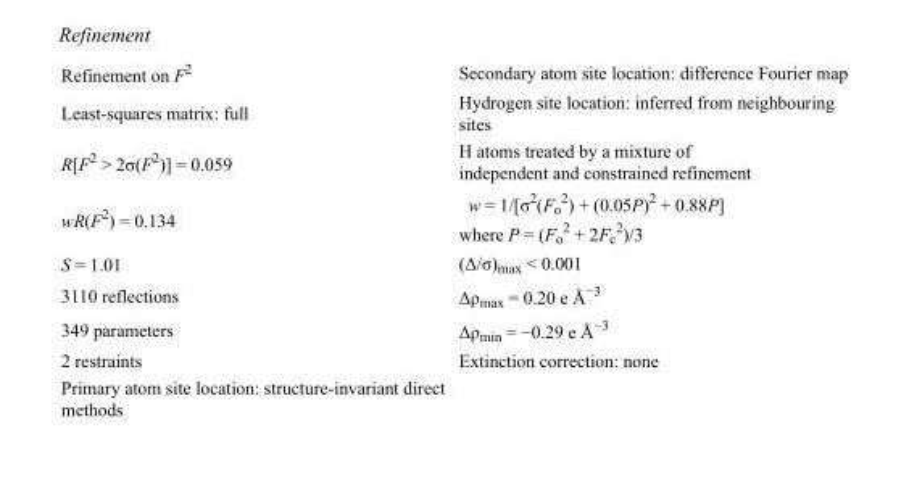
<table><tbody><tr><td>Refinement on F<sup>2</sup></td><td>Secondary atom site location: difference Fourier map</td></tr><tr><td>Least-squares matrix: full</td><td>Hydrogen site location: inferred from neighbouring sites</td></tr><tr><td>R[F<sup>2</sup> &gt; 2σ(F<sup>2</sup>)] = 0.059</td><td>H atoms treated by a mixture of independent and constrained refinement</td></tr><tr><td>wR(F<sup>2</sup>) = 0.134</td><td>w = 1/[σ<sup>2</sup>(F<sub>o</sub> <sup>2</sup>) + (0.05P)<sup>2</sup> + 0.88P] where P = (F<sub>o</sub> <sup>2</sup> + 2F<sub>c</sub> <sup>2</sup>)/3</td></tr><tr><td>S = 1.01</td><td>(Δ/σ)<sub>max</sub> &lt; 0.001</td></tr><tr><td>3110 reflections</td><td>Δρ<sub>max</sub> = 0.20 e Å<sup>−3</sup></td></tr><tr><td>349 parameters</td><td>Δρ<sub>min</sub> = −0.29 e Å<sup>−3</sup></td></tr><tr><td>2 restraints</td><td>Extinction correction: none</td></tr><tr><td>Primary atom site location: structure-invariant direct methods</td><td></td></tr></tbody></table>